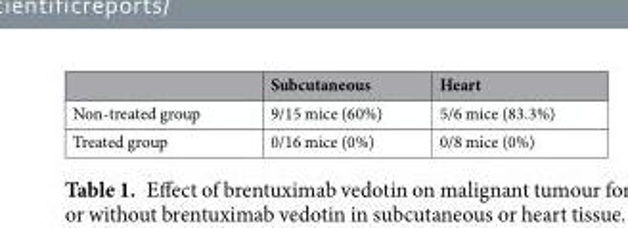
<table><thead><tr><td></td><td>Subcutaneous</td><td>Heart</td></tr></thead><tbody><tr><td>Non-treated group</td><td>9/15 mice (60%)</td><td>5/6 mice (83.3%)</td></tr><tr><td>Treated group</td><td>0/16 mice (0%)</td><td>0/8 mice (0%)</td></tr></tbody></table>